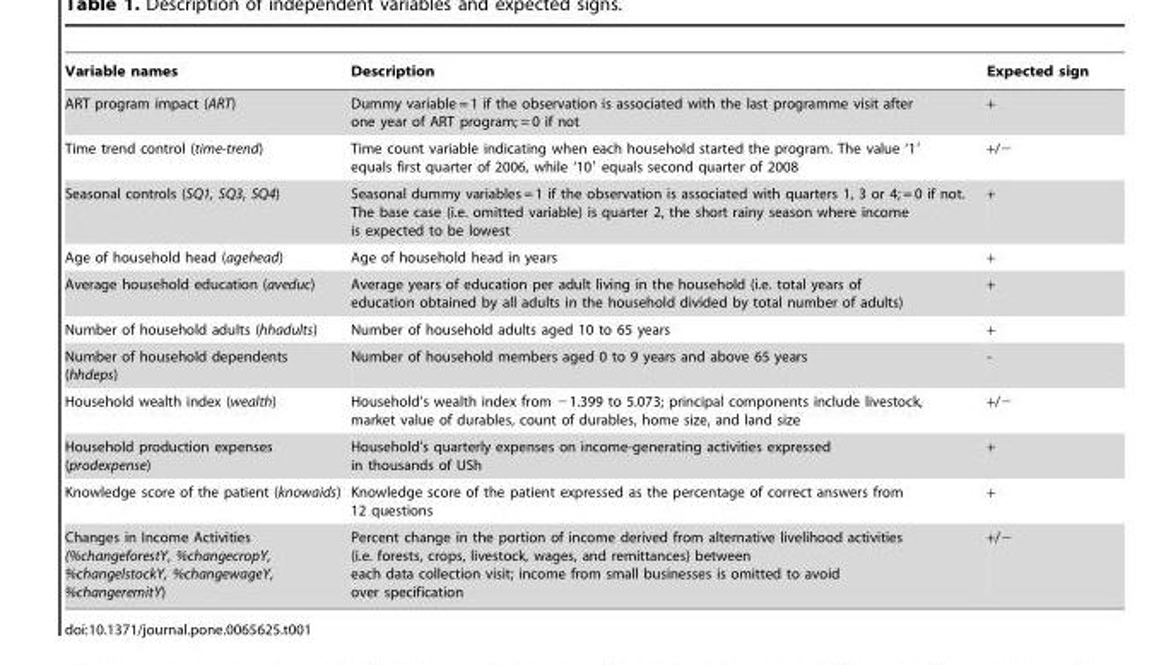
<table><thead><tr><td>Variable names</td><td>Description</td><td>Expected sign</td></tr></thead><tbody><tr><td>ART program impact (ART)</td><td>Dummy variable = 1 if the observation is associated with the last programme visit after one year of ART program; = 0 if not</td><td>+</td></tr><tr><td>Time trend control (time-trend)</td><td>Time count variable indicating when each household started the program. The value ‘1′ equals first quarter of 2006, while ‘10′ equals second quarter of 2008</td><td>+/−</td></tr><tr><td>Seasonal controls (SQ1, SQ3, SQ4)</td><td>Seasonal dummy variables = 1 if the observation is associated with quarters 1, 3 or 4; = 0 if not. The base case (i.e. omitted variable) is quarter 2, the short rainy season where income is expected to be lowest</td><td>+</td></tr><tr><td>Age of household head (agehead)</td><td>Age of household head in years</td><td>+</td></tr><tr><td>Average household education (aveduc)</td><td>Average years of education per adult living in the household (i.e. total years of education obtained by all adults in the household divided by total number of adults)</td><td>+</td></tr><tr><td>Number of household adults (hhadults)</td><td>Number of household adults aged 10 to 65 years</td><td>+</td></tr><tr><td>Number of household dependents (hhdeps)</td><td>Number of household members aged 0 to 9 years and above 65 years</td><td>-</td></tr><tr><td>Household wealth index (wealth)</td><td>Household’s wealth index from −1.399 to 5.073; principal components include livestock, market value of durables, count of durables, home size, and land size</td><td>+/−</td></tr><tr><td>Household production expenses (prodexpense)</td><td>Household’s quarterly expenses on income-generating activities expressed in thousands of USh</td><td>+</td></tr><tr><td>Knowledge score of the patient (knowaids)</td><td>Knowledge score of the patient expressed as the percentage of correct answers from 12 questions</td><td>+</td></tr><tr><td>Changes in Income Activities (%changeforestY, %changecropY, %changelstockY, %changewageY, %changeremitY)</td><td>Percent change in the portion of income derived from alternative livelihood activities (i.e. forests, crops, livestock, wages, and remittances) between each data collection visit; income from small businesses is omitted to avoid over specification</td><td>+/−</td></tr></tbody></table>